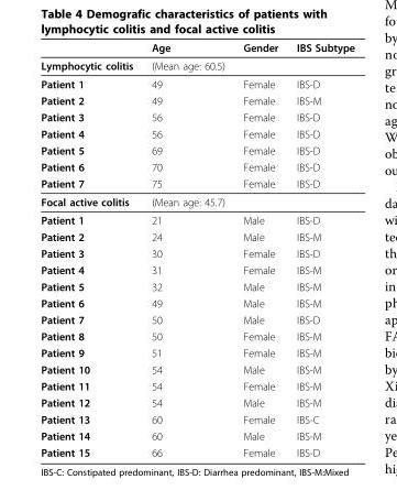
<table><thead><tr><td></td><td>Age</td><td>Gender</td><td>IBS Subtype</td></tr></thead><tbody><tr><td>Lymphocytic colitis</td><td>(Mean age: 60.5)</td><td></td><td></td></tr><tr><td>Patient 1</td><td>49</td><td>Female</td><td>IBS-D</td></tr><tr><td>Patient 2</td><td>49</td><td>Female</td><td>IBS-M</td></tr><tr><td>Patient 3</td><td>56</td><td>Female</td><td>IBS-D</td></tr><tr><td>Patient 4</td><td>56</td><td>Female</td><td>IBS-D</td></tr><tr><td>Patient 5</td><td>69</td><td>Female</td><td>IBS-D</td></tr><tr><td>Patient 6</td><td>70</td><td>Female</td><td>IBS-D</td></tr><tr><td>Patient 7</td><td>75</td><td>Female</td><td>IBS-D</td></tr><tr><td>Focal active colitis</td><td>(Mean age: 45.7)</td><td></td><td></td></tr><tr><td>Patient 1</td><td>21</td><td>Male</td><td>IBS-D</td></tr><tr><td>Patient 2</td><td>24</td><td>Male</td><td>IBS-M</td></tr><tr><td>Patient 3</td><td>30</td><td>Female</td><td>IBS-D</td></tr><tr><td>Patient 4</td><td>31</td><td>Female</td><td>IBS-M</td></tr><tr><td>Patient 5</td><td>32</td><td>Male</td><td>IBS-M</td></tr><tr><td>Patient 6</td><td>49</td><td>Male</td><td>IBS-M</td></tr><tr><td>Patient 7</td><td>50</td><td>Male</td><td>IBS-D</td></tr><tr><td>Patient 8</td><td>50</td><td>Female</td><td>IBS-M</td></tr><tr><td>Patient 9</td><td>51</td><td>Female</td><td>IBS-M</td></tr><tr><td>Patient 10</td><td>54</td><td>Male</td><td>IBS-M</td></tr><tr><td>Patient 11</td><td>54</td><td>Female</td><td>IBS-M</td></tr><tr><td>Patient 12</td><td>54</td><td>Male</td><td>IBS-M</td></tr><tr><td>Patient 13</td><td>60</td><td>Female</td><td>IBS-C</td></tr><tr><td>Patient 14</td><td>60</td><td>Male</td><td>IBS-M</td></tr><tr><td>Patient 15</td><td>66</td><td>Female</td><td>IBS-D</td></tr></tbody></table>